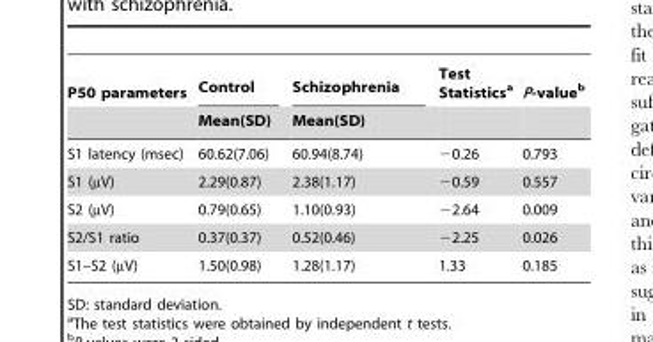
<table><thead><tr><td rowspan="2">P50 parameters</td><td rowspan="2">Control Mean(SD)</td><td rowspan="2">Schizophrenia Mean(SD)</td><td rowspan="2">Test Statistics<sup>a</sup></td><td rowspan="2">P-value<sup>b</sup></td></tr><tr></tr></thead><tbody><tr><td>S1 latency (msec)</td><td>60.62(7.06)</td><td>60.94(8.74)</td><td>−0.26</td><td>0.793</td></tr><tr><td>S1 (µV)</td><td>2.29(0.87)</td><td>2.38(1.17)</td><td>−0.59</td><td>0.557</td></tr><tr><td>S2 (µV)</td><td>0.79(0.65)</td><td>1.10(0.93)</td><td>−2.64</td><td>0.009</td></tr><tr><td>S2/S1 ratio</td><td>0.37(0.37)</td><td>0.52(0.46)</td><td>−2.25</td><td>0.026</td></tr><tr><td>S1–S2 (µV)</td><td>1.50(0.98)</td><td>1.28(1.17)</td><td>1.33</td><td>0.185</td></tr></tbody></table>